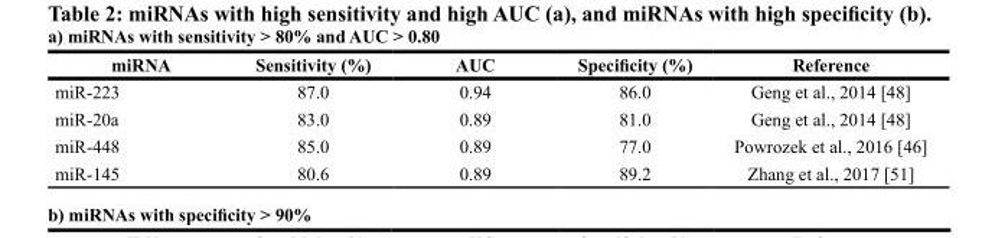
<table><thead><tr><td>miRNA</td><td>Sensitivity (%)</td><td>AUC</td><td>Specificity (%)</td><td>Reference</td></tr></thead><tbody><tr><td>miR-223</td><td>87.0</td><td>0.94</td><td>86.0</td><td>Geng et al., 2014 [48]</td></tr><tr><td>miR-20a</td><td>83.0</td><td>0.89</td><td>81.0</td><td>Geng et al., 2014 [48]</td></tr><tr><td>miR-448</td><td>85.0</td><td>0.89</td><td>77.0</td><td>Powrozek et al., 2016 [46]</td></tr><tr><td>miR-145</td><td>80.6</td><td>0.89</td><td>89.2</td><td>Zhang et al., 2017 [51]</td></tr></tbody></table>